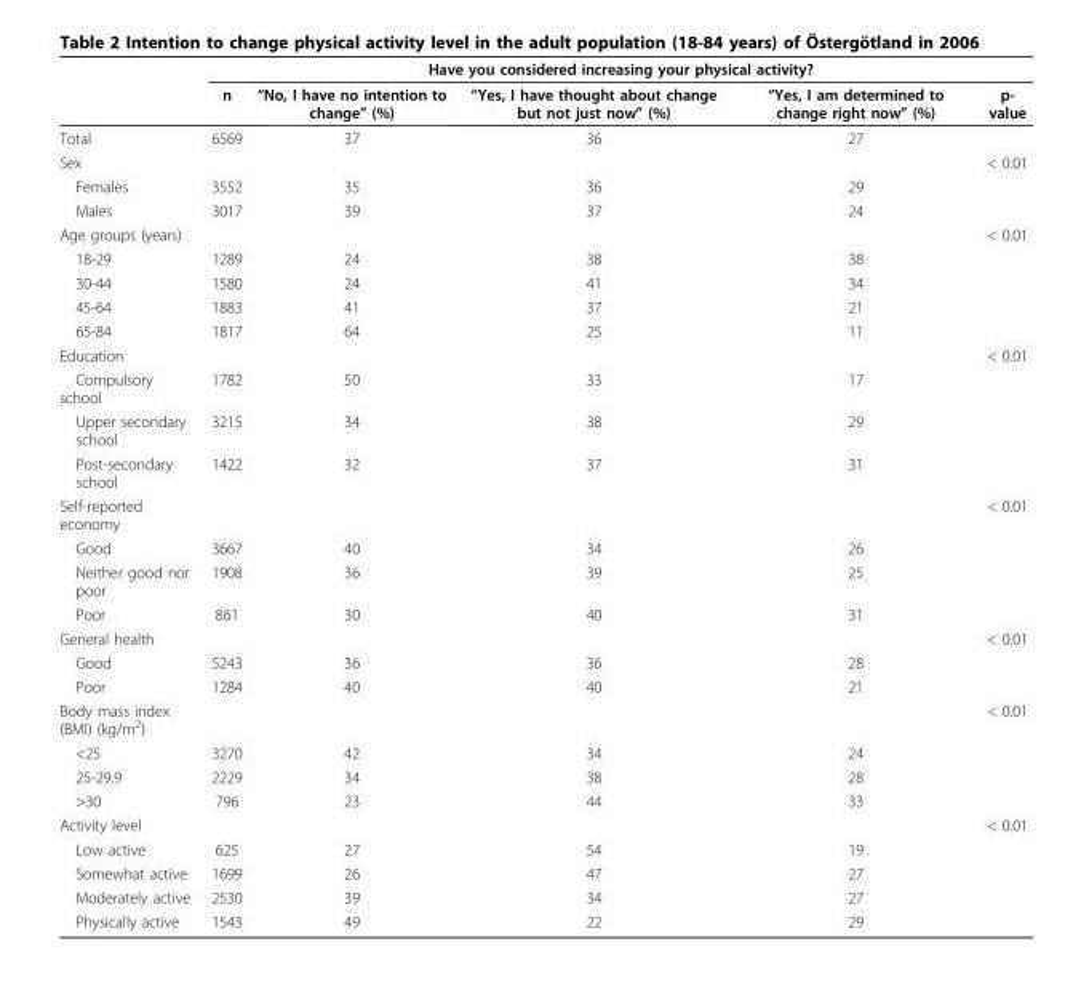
<table><thead><tr><td rowspan="2"></td><td colspan="5">Have you considered increasing your physical activity?</td></tr><tr><td>n</td><td>“No, I have no intention to change” (%)</td><td>“Yes, I have thought about change but not just now” (%)</td><td>“Yes, I am determined to change right now” (%)</td><td>p- value</td></tr></thead><tbody><tr><td>Total</td><td>6569</td><td>37</td><td>36</td><td>27</td><td></td></tr><tr><td>Sex</td><td></td><td></td><td></td><td></td><td>&lt; 0.01</td></tr><tr><td>Females</td><td>3552</td><td>35</td><td>36</td><td>29</td><td></td></tr><tr><td>Males</td><td>3017</td><td>39</td><td>37</td><td>24</td><td></td></tr><tr><td>Age groups (years)</td><td></td><td></td><td></td><td></td><td>&lt; 0.01</td></tr><tr><td>18-29</td><td>1289</td><td>24</td><td>38</td><td>38</td><td></td></tr><tr><td>30-44</td><td>1580</td><td>24</td><td>41</td><td>34</td><td></td></tr><tr><td>45-64</td><td>1883</td><td>41</td><td>37</td><td>21</td><td></td></tr><tr><td>65-84</td><td>1817</td><td>64</td><td>25</td><td>11</td><td></td></tr><tr><td>Education</td><td></td><td></td><td></td><td></td><td>&lt; 0.01</td></tr><tr><td>Compulsory school</td><td>1782</td><td>50</td><td>33</td><td>17</td><td></td></tr><tr><td>Upper secondary school</td><td>3215</td><td>34</td><td>38</td><td>29</td><td></td></tr><tr><td>Post-secondary school</td><td>1422</td><td>32</td><td>37</td><td>31</td><td></td></tr><tr><td>Self-reported economy</td><td></td><td></td><td></td><td></td><td>&lt; 0.01</td></tr><tr><td>Good</td><td>3667</td><td>40</td><td>34</td><td>26</td><td></td></tr><tr><td>Neither good nor poor</td><td>1908</td><td>36</td><td>39</td><td>25</td><td></td></tr><tr><td>Poor</td><td>861</td><td>30</td><td>40</td><td>31</td><td></td></tr><tr><td>General health</td><td></td><td></td><td></td><td></td><td>&lt; 0.01</td></tr><tr><td>Good</td><td>5243</td><td>36</td><td>36</td><td>28</td><td></td></tr><tr><td>Poor</td><td>1284</td><td>40</td><td>40</td><td>21</td><td></td></tr><tr><td>Body mass index (BMI) (kg/m<sup>2</sup>)</td><td></td><td></td><td></td><td></td><td>&lt; 0.01</td></tr><tr><td>&lt;25</td><td>3270</td><td>42</td><td>34</td><td>24</td><td></td></tr><tr><td>25-29.9</td><td>2229</td><td>34</td><td>38</td><td>28</td><td></td></tr><tr><td>&gt;30</td><td>796</td><td>23</td><td>44</td><td>33</td><td></td></tr><tr><td>Activity level</td><td></td><td></td><td></td><td></td><td>&lt; 0.01</td></tr><tr><td>Low active</td><td>625</td><td>27</td><td>54</td><td>19</td><td></td></tr><tr><td>Somewhat active</td><td>1699</td><td>26</td><td>47</td><td>27</td><td></td></tr><tr><td>Moderately active</td><td>2530</td><td>39</td><td>34</td><td>27</td><td></td></tr><tr><td>Physically active</td><td>1543</td><td>49</td><td>22</td><td>29</td><td></td></tr></tbody></table>